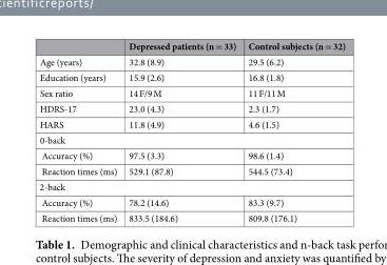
<table><thead><tr><td></td><td>Depressed patients (n = 33)</td><td>Control subjects (n = 32)</td></tr></thead><tbody><tr><td>Age (years)</td><td>32.8 (8.9)</td><td>29.5 (6.2)</td></tr><tr><td>Education (years)</td><td>15.9 (2.6)</td><td>16.8 (1.8)</td></tr><tr><td>Sex ratio</td><td>14 F/9 M</td><td>11 F/11 M</td></tr><tr><td>HDRS-17</td><td>23.0 (4.3)</td><td>2.3 (1.7)</td></tr><tr><td>HARS</td><td>11.8 (4.9)</td><td>4.6 (1.5)</td></tr><tr><td colspan="3">0-back</td></tr><tr><td>Accuracy (%)</td><td>97.5 (3.3)</td><td>98.6 (1.4)</td></tr><tr><td>Reaction times (ms)</td><td>529.1 (87.8)</td><td>544.5 (73.4)</td></tr><tr><td colspan="3">2-back</td></tr><tr><td>Accuracy (%)</td><td>78.2 (14.6)</td><td>83.3 (9.7)</td></tr><tr><td>Reaction times (ms)</td><td>833.5 (184.6)</td><td>809.8 (176.1)</td></tr></tbody></table>